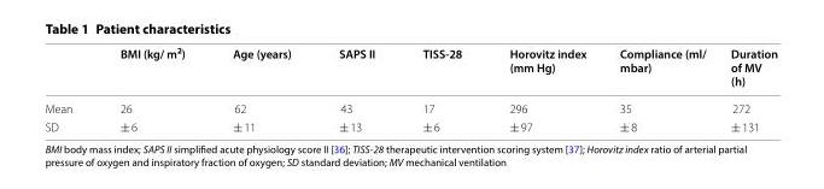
<table><thead><tr><td></td><td>BMI (kg/ m<sup>2</sup>)</td><td>Age (years)</td><td>SAPS II</td><td>TISS-28</td><td>Horovitz index (mm Hg)</td><td>Compliance (ml/ mbar)</td><td>Duration of MV (h)</td></tr></thead><tbody><tr><td>Mean</td><td>26</td><td>62</td><td>43</td><td>17</td><td>296</td><td>35</td><td>272</td></tr><tr><td>SD</td><td>± 6</td><td>± 11</td><td>± 13</td><td>± 6</td><td>± 97</td><td>± 8</td><td>± 131</td></tr></tbody></table>